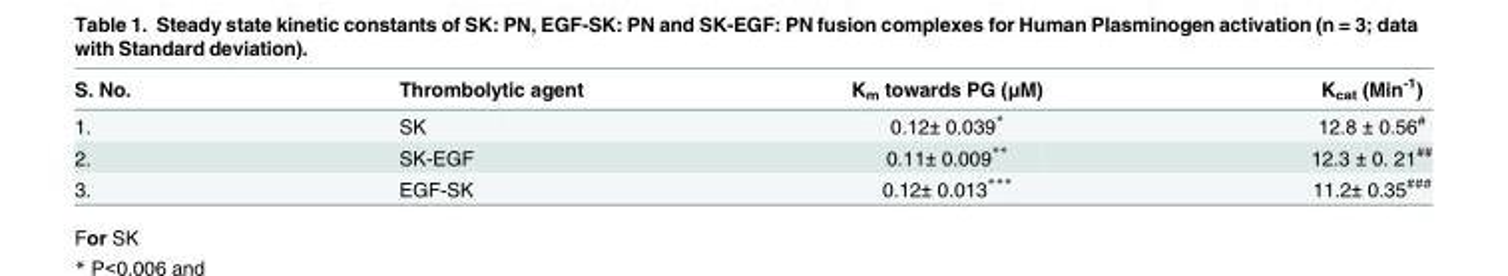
<table><thead><tr><td>S. No.</td><td>Thrombolytic agent</td><td>K<sub>m</sub> towards PG (μM)</td><td>K<sub>cat</sub> (Min<sup>-1</sup>)</td></tr></thead><tbody><tr><td>1.</td><td>SK</td><td>0.12± 0.039*</td><td>12.8 ± 0.56<sup>#</sup></td></tr><tr><td>2.</td><td>SK-EGF</td><td>0.11± 0.009**</td><td>12.3 ± 0. 21<sup>##</sup></td></tr><tr><td>3.</td><td>EGF-SK</td><td>0.12± 0.013***</td><td>11.2± 0.35<sup>###</sup></td></tr></tbody></table>